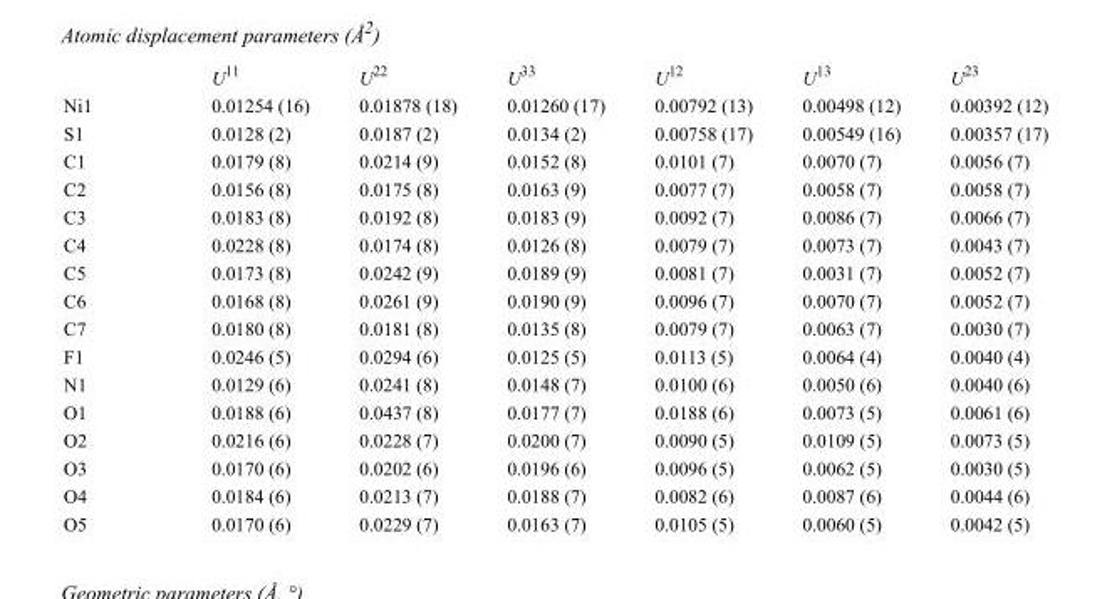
<table><thead><tr><td></td><td>U<sup>11</sup></td><td>U<sup>22</sup></td><td>U<sup>33</sup></td><td>U<sup>12</sup></td><td>U<sup>13</sup></td><td>U<sup>23</sup></td></tr></thead><tbody><tr><td>Ni1</td><td>0.01254 (16)</td><td>0.01878 (18)</td><td>0.01260 (17)</td><td>0.00792 (13)</td><td>0.00498 (12)</td><td>0.00392 (12)</td></tr><tr><td>S1</td><td>0.0128 (2)</td><td>0.0187 (2)</td><td>0.0134 (2)</td><td>0.00758 (17)</td><td>0.00549 (16)</td><td>0.00357 (17)</td></tr><tr><td>C1</td><td>0.0179 (8)</td><td>0.0214 (9)</td><td>0.0152 (8)</td><td>0.0101 (7)</td><td>0.0070 (7)</td><td>0.0056 (7)</td></tr><tr><td>C2</td><td>0.0156 (8)</td><td>0.0175 (8)</td><td>0.0163 (9)</td><td>0.0077 (7)</td><td>0.0058 (7)</td><td>0.0058 (7)</td></tr><tr><td>C3</td><td>0.0183 (8)</td><td>0.0192 (8)</td><td>0.0183 (9)</td><td>0.0092 (7)</td><td>0.0086 (7)</td><td>0.0066 (7)</td></tr><tr><td>C4</td><td>0.0228 (8)</td><td>0.0174 (8)</td><td>0.0126 (8)</td><td>0.0079 (7)</td><td>0.0073 (7)</td><td>0.0043 (7)</td></tr><tr><td>C5</td><td>0.0173 (8)</td><td>0.0242 (9)</td><td>0.0189 (9)</td><td>0.0081 (7)</td><td>0.0031 (7)</td><td>0.0052 (7)</td></tr><tr><td>C6</td><td>0.0168 (8)</td><td>0.0261 (9)</td><td>0.0190 (9)</td><td>0.0096 (7)</td><td>0.0070 (7)</td><td>0.0052 (7)</td></tr><tr><td>C7</td><td>0.0180 (8)</td><td>0.0181 (8)</td><td>0.0135 (8)</td><td>0.0079 (7)</td><td>0.0063 (7)</td><td>0.0030 (7)</td></tr><tr><td>F1</td><td>0.0246 (5)</td><td>0.0294 (6)</td><td>0.0125 (5)</td><td>0.0113 (5)</td><td>0.0064 (4)</td><td>0.0040 (4)</td></tr><tr><td>N1</td><td>0.0129 (6)</td><td>0.0241 (8)</td><td>0.0148 (7)</td><td>0.0100 (6)</td><td>0.0050 (6)</td><td>0.0040 (6)</td></tr><tr><td>O1</td><td>0.0188 (6)</td><td>0.0437 (8)</td><td>0.0177 (7)</td><td>0.0188 (6)</td><td>0.0073 (5)</td><td>0.0061 (6)</td></tr><tr><td>O2</td><td>0.0216 (6)</td><td>0.0228 (7)</td><td>0.0200 (7)</td><td>0.0090 (5)</td><td>0.0109 (5)</td><td>0.0073 (5)</td></tr><tr><td>O3</td><td>0.0170 (6)</td><td>0.0202 (6)</td><td>0.0196 (6)</td><td>0.0096 (5)</td><td>0.0062 (5)</td><td>0.0030 (5)</td></tr><tr><td>O4</td><td>0.0184 (6)</td><td>0.0213 (7)</td><td>0.0188 (7)</td><td>0.0082 (6)</td><td>0.0087 (6)</td><td>0.0044 (6)</td></tr><tr><td>O5</td><td>0.0170 (6)</td><td>0.0229 (7)</td><td>0.0163 (7)</td><td>0.0105 (5)</td><td>0.0060 (5)</td><td>0.0042 (5)</td></tr></tbody></table>